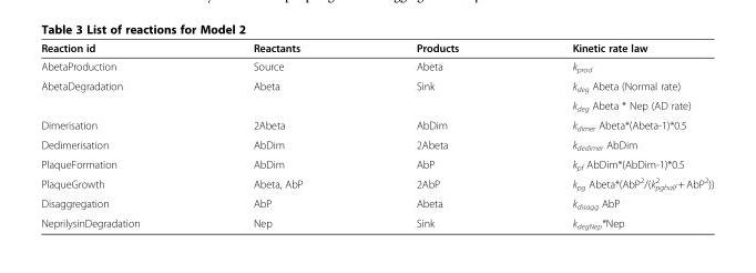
<table><thead><tr><td>Reaction id</td><td>Reactants</td><td>Products</td><td>Kinetic rate law</td></tr></thead><tbody><tr><td>AbetaProduction</td><td>Source</td><td>Abeta</td><td>k<sub>prod</sub></td></tr><tr><td rowspan="2">AbetaDegradation</td><td rowspan="2">Abeta</td><td rowspan="2">Sink</td><td>k<sub>deg</sub> Abeta (Normal rate)</td></tr><tr><td>k<sub>deg</sub> Abeta * Nep (AD rate)</td></tr><tr><td>Dimerisation</td><td>2Abeta</td><td>AbDim</td><td>k<sub>dimer</sub> Abeta*(Abeta-1)*0.5</td></tr><tr><td>Dedimerisation</td><td>AbDim</td><td>2Abeta</td><td>k<sub>dedimer</sub> AbDim</td></tr><tr><td>PlaqueFormation</td><td>AbDim</td><td>AbP</td><td>k<sub>pf</sub> AbDim*(AbDim-1)*0.5</td></tr><tr><td>PlaqueGrowth</td><td>Abeta, AbP</td><td>2AbP</td><td>k<sub>pg</sub> Abeta*(AbP<sup>2</sup>/(k<sub>pghalf</sub> <sup>2</sup> + AbP<sup>2</sup>))</td></tr><tr><td>Disaggregation</td><td>AbP</td><td>Abeta</td><td>k<sub>disagg</sub> AbP</td></tr><tr><td>NeprilysinDegradation</td><td>Nep</td><td>Sink</td><td>k<sub>degNep</sub>*Nep</td></tr></tbody></table>